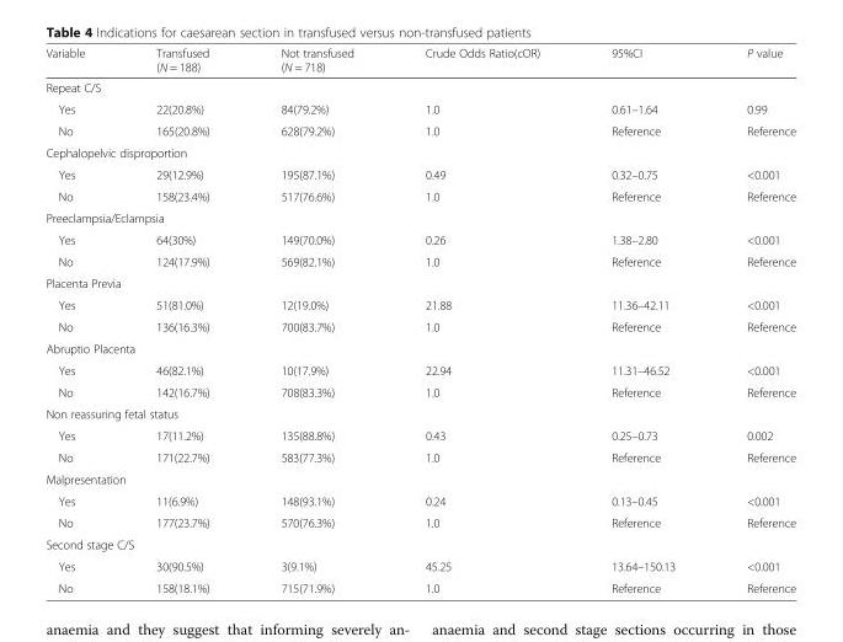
<table><thead><tr><td>Variable</td><td>Transfused (N = 188)</td><td>Not transfused (N = 718)</td><td>Crude Odds Ratio(cOR)</td><td>95%CI</td><td>P value</td></tr></thead><tbody><tr><td colspan="6">Repeat C/S</td></tr><tr><td>Yes</td><td>22(20.8%)</td><td>84(79.2%)</td><td>1.0</td><td>0.61–1.64</td><td>0.99</td></tr><tr><td>No</td><td>165(20.8%)</td><td>628(79.2%)</td><td>1.0</td><td>Reference</td><td>Reference</td></tr><tr><td colspan="6">Cephalopelvic disproportion</td></tr><tr><td>Yes</td><td>29(12.9%)</td><td>195(87.1%)</td><td>0.49</td><td>0.32–0.75</td><td>&lt;0.001</td></tr><tr><td>No</td><td>158(23.4%)</td><td>517(76.6%)</td><td>1.0</td><td>Reference</td><td>Reference</td></tr><tr><td colspan="6">Preeclampsia/Eclampsia</td></tr><tr><td>Yes</td><td>64(30%)</td><td>149(70.0%)</td><td>0.26</td><td>1.38–2.80</td><td>&lt;0.001</td></tr><tr><td>No</td><td>124(17.9%)</td><td>569(82.1%)</td><td>1.0</td><td>Reference</td><td>Reference</td></tr><tr><td colspan="6">Placenta Previa</td></tr><tr><td>Yes</td><td>51(81.0%)</td><td>12(19.0%)</td><td>21.88</td><td>11.36–42.11</td><td>&lt;0.001</td></tr><tr><td>No</td><td>136(16.3%)</td><td>700(83.7%)</td><td>1.0</td><td>Reference</td><td>Reference</td></tr><tr><td colspan="6">Abruptio Placenta</td></tr><tr><td>Yes</td><td>46(82.1%)</td><td>10(17.9%)</td><td>22.94</td><td>11.31–46.52</td><td>&lt;0.001</td></tr><tr><td>No</td><td>142(16.7%)</td><td>708(83.3%)</td><td>1.0</td><td>Reference</td><td>Reference</td></tr><tr><td colspan="6">Non reassuring fetal status</td></tr><tr><td>Yes</td><td>17(11.2%)</td><td>135(88.8%)</td><td>0.43</td><td>0.25–0.73</td><td>0.002</td></tr><tr><td>No</td><td>171(22.7%)</td><td>583(77.3%)</td><td>1.0</td><td>Reference</td><td>Reference</td></tr><tr><td colspan="6">Malpresentation</td></tr><tr><td>Yes</td><td>11(6.9%)</td><td>148(93.1%)</td><td>0.24</td><td>0.13–0.45</td><td>&lt;0.001</td></tr><tr><td>No</td><td>177(23.7%)</td><td>570(76.3%)</td><td>1.0</td><td>Reference</td><td>Reference</td></tr><tr><td colspan="6">Second stage C/S</td></tr><tr><td>Yes</td><td>30(90.5%)</td><td>3(9.1%)</td><td>45.25</td><td>13.64–150.13</td><td>&lt;0.001</td></tr><tr><td>No</td><td>158(18.1%)</td><td>715(71.9%)</td><td>1.0</td><td>Reference</td><td>Reference</td></tr></tbody></table>